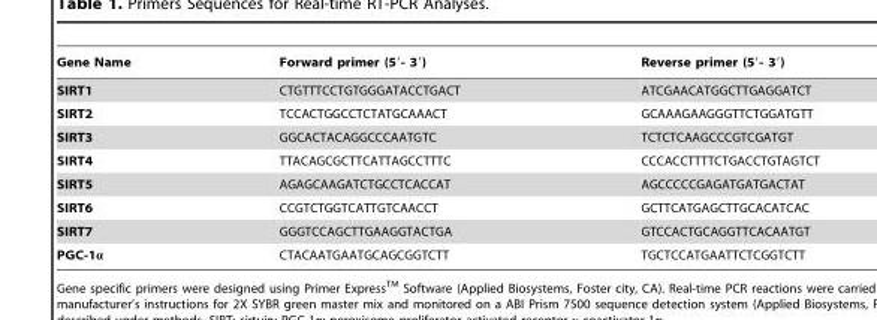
<table><thead><tr><td>Gene Name</td><td>Forward primer (5′- 3′)</td><td>Reverse primer (5′- 3′)</td></tr></thead><tbody><tr><td>SIRT1</td><td>CTGTTTCCTGTGGGATACCTGACT</td><td>ATCGAACATGGCTTGAGGATCT</td></tr><tr><td>SIRT2</td><td>TCCACTGGCCTCTATGCAAACT</td><td>GCAAAGAAGGGTTCTGGATGTT</td></tr><tr><td>SIRT3</td><td>GGCACTACAGGCCCAATGTC</td><td>TCTCTCAAGCCCGTCGATGT</td></tr><tr><td>SIRT4</td><td>TTACAGCGCTTCATTAGCCTTTC</td><td>CCCACCTTTTCTGACCTGTAGTCT</td></tr><tr><td>SIRT5</td><td>AGAGCAAGATCTGCCTCACCAT</td><td>AGCCCCCGAGATGATGACTAT</td></tr><tr><td>SIRT6</td><td>CCGTCTGGTCATTGTCAACCT</td><td>GCTTCATGAGCTTGCACATCAC</td></tr><tr><td>SIRT7</td><td>GGGTCCAGCTTGAAGGTACTGA</td><td>GTCCACTGCAGGTTCACAATGT</td></tr><tr><td>PGC-1α</td><td>CTACAATGAATGCAGCGGTCTT</td><td>TGCTCCATGAATTCTCGGTCTT</td></tr></tbody></table>